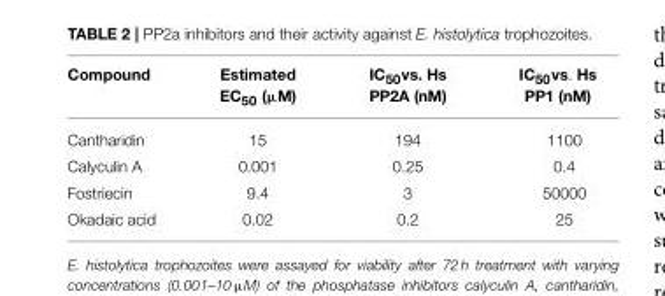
<table><thead><tr><td>Compound</td><td>Estimated EC<sub>50</sub> (µM)</td><td>IC<sub>50</sub>vs. Hs PP2A (nM)</td><td>IC<sub>50</sub>vs. Hs PP1 (nM)</td></tr></thead><tbody><tr><td>Cantharidin</td><td>15</td><td>194</td><td>1100</td></tr><tr><td>Calyculin A</td><td>0.001</td><td>0.25</td><td>0.4</td></tr><tr><td>Fostriecin</td><td>9.4</td><td>3</td><td>50000</td></tr><tr><td>Okadaic acid</td><td>0.02</td><td>0.2</td><td>25</td></tr></tbody></table>